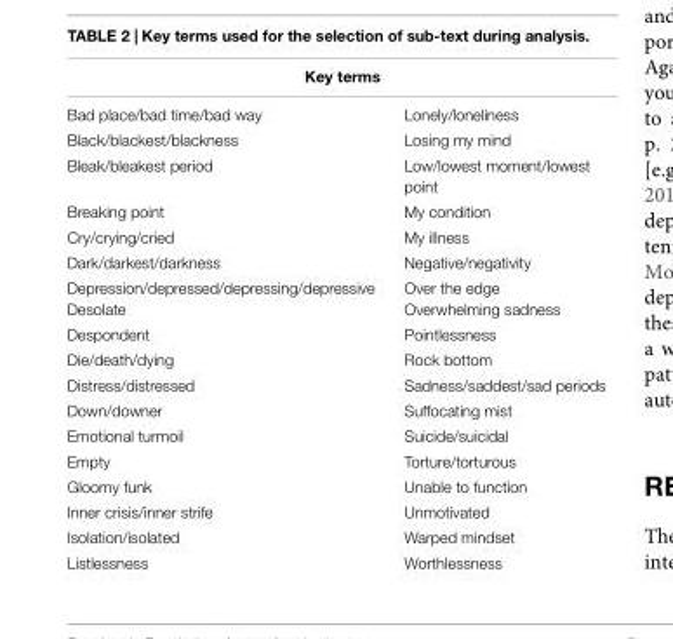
<table><thead><tr><td colspan="2">Key terms</td></tr><tr><td>Bad place/bad time/bad way</td><td>Lonely/loneliness</td></tr></thead><tbody><tr><td>Black/blackest/blackness</td><td>Losing my mind</td></tr><tr><td>Bleak/bleakest period</td><td>Low/lowest moment/lowest point</td></tr><tr><td>Breaking point</td><td>My condition</td></tr><tr><td>Cry/crying/cried</td><td>My illness</td></tr><tr><td>Dark/darkest/darkness</td><td>Negative/negativity</td></tr><tr><td>Depression/depressed/depressing/depressive Desolate</td><td>Over the edge Overwhelming sadness</td></tr><tr><td>Despondent</td><td>Pointlessness</td></tr><tr><td>Die/death/dying</td><td>Rock bottom</td></tr><tr><td>Distress/distressed</td><td>Sadness/saddest/sad periods</td></tr><tr><td>Down/downer</td><td>Suffocating mist</td></tr><tr><td>Emotional turmoil</td><td>Suicide/suicidal</td></tr><tr><td>Empty</td><td>Torture/torturous</td></tr><tr><td>Gloomy funk</td><td>Unable to function</td></tr><tr><td>Inner crisis/inner strife</td><td>Unmotivated</td></tr><tr><td>Isolation/isolated</td><td>Warped mindset</td></tr><tr><td>Listlessness</td><td>Worthlessness</td></tr></tbody></table>